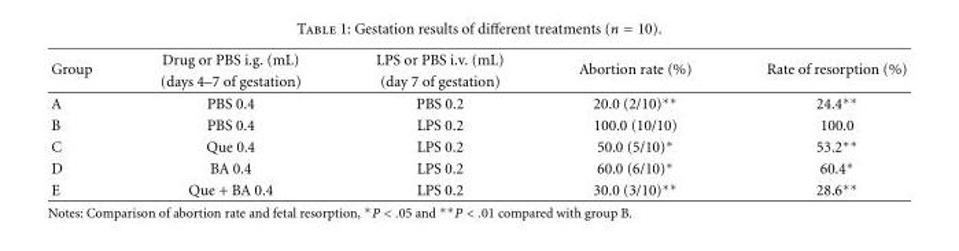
<table><thead><tr><td rowspan="2">Group</td><td rowspan="2">Drug or PBS i.g. (mL) (days 4–7 of gestation)</td><td rowspan="2">LPS or PBS i.v. (mL) (day 7 of gestation)</td><td rowspan="2">Abortion rate (%)</td><td rowspan="2">Rate of resorption (%)</td></tr><tr></tr></thead><tbody><tr><td>A</td><td>PBS 0.4</td><td>PBS 0.2</td><td>20.0 (2/10)∗∗</td><td>24.4∗∗</td></tr><tr><td>B</td><td>PBS 0.4</td><td>LPS 0.2</td><td>100.0 (10/10)</td><td>100.0</td></tr><tr><td>C</td><td>Que 0.4</td><td>LPS 0.2</td><td>50.0 (5/10)∗</td><td>53.2∗∗</td></tr><tr><td>D</td><td>BA 0.4</td><td>LPS 0.2</td><td>60.0 (6/10)∗</td><td>60.4∗</td></tr><tr><td>E</td><td>Que + BA 0.4</td><td>LPS 0.2</td><td>30.0 (3/10)∗∗</td><td>28.6∗∗</td></tr></tbody></table>